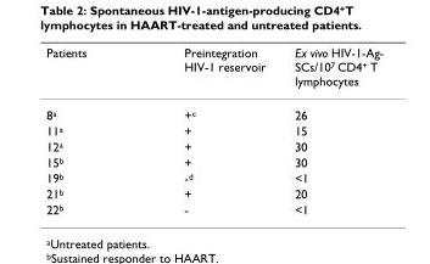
<table><thead><tr><td>Patients</td><td>Preintegration HIV-1 reservoir</td><td>Ex vivo HIV-1-Ag- SCs/10<sup>7</sup> CD4<sup>+</sup> T lymphocytes</td></tr></thead><tbody><tr><td>8<sup>a</sup></td><td>+<sup>c</sup></td><td>26</td></tr><tr><td>11<sup>a</sup></td><td>+</td><td>15</td></tr><tr><td>12<sup>a</sup></td><td>+</td><td>30</td></tr><tr><td>15<sup>b</sup></td><td>+</td><td>30</td></tr><tr><td>19<sup>b</sup></td><td>-<sup>d</sup></td><td>&lt;1</td></tr><tr><td>21<sup>b</sup></td><td>+</td><td>20</td></tr><tr><td>22<sup>b</sup></td><td>-</td><td>&lt;1</td></tr></tbody></table>